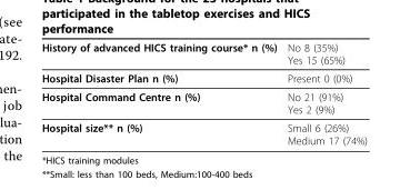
<table><thead><tr><td>History of advanced HICS training course* n (%)</td><td>No 8 (35%) Yes 15 (65%)</td></tr></thead><tbody><tr><td>Hospital Disaster Plan n (%)</td><td>Present 0 (0%)</td></tr><tr><td>Hospital Command Centre n (%)</td><td>No 21 (91%) Yes 2 (9%)</td></tr><tr><td>Hospital size** n (%)</td><td>Small 6 (26%) Medium 17 (74%)</td></tr></tbody></table>